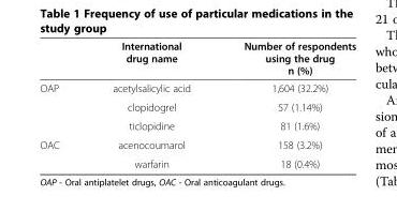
<table><thead><tr><td></td><td>International drug name</td><td>Number of respondents using the drug n (%)</td></tr></thead><tbody><tr><td rowspan="3">OAP</td><td>acetylsalicylic acid</td><td>1,604 (32.2%)</td></tr><tr><td>clopidogrel</td><td>57 (1.14%)</td></tr><tr><td>ticlopidine</td><td>81 (1.6%)</td></tr><tr><td rowspan="2">OAC</td><td>acenocoumarol</td><td>158 (3.2%)</td></tr><tr><td>warfarin</td><td>18 (0.4%)</td></tr></tbody></table>